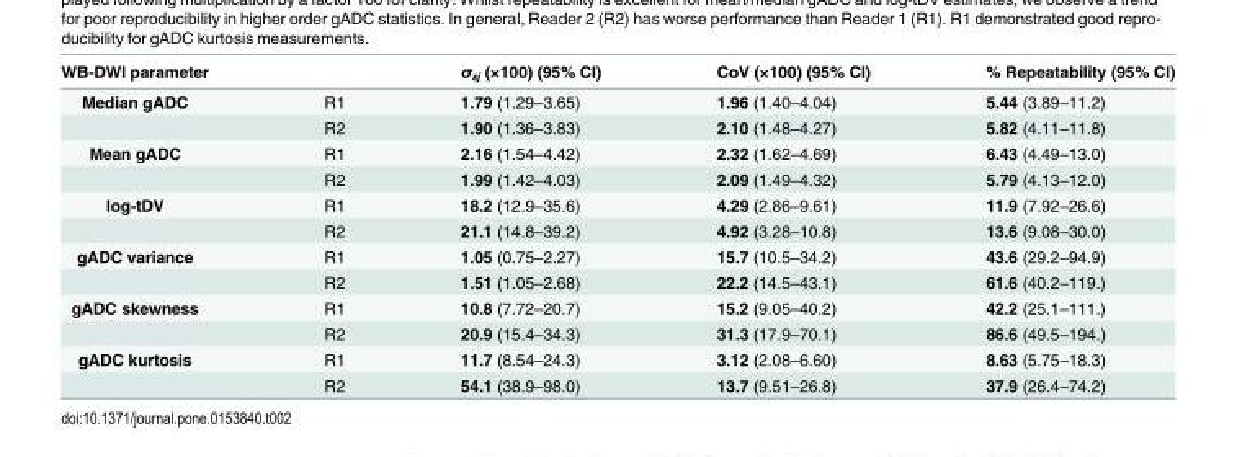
<table><thead><tr><td>WB-DWI parameter</td><td></td><td>σ<sub>εj</sub> (×100) (95% CI)</td><td>CoV (×100) (95% CI)</td><td>% Repeatability (95% CI)</td></tr></thead><tbody><tr><td rowspan="2">Median gADC</td><td>R1</td><td>1.79 (1.29–3.65)</td><td>1.96 (1.40–4.04)</td><td>5.44 (3.89–11.2)</td></tr><tr><td>R2</td><td>1.90 (1.36–3.83)</td><td>2.10 (1.48–4.27)</td><td>5.82 (4.11–11.8)</td></tr><tr><td rowspan="2">Mean gADC</td><td>R1</td><td>2.16 (1.54–4.42)</td><td>2.32 (1.62–4.69)</td><td>6.43 (4.49–13.0)</td></tr><tr><td>R2</td><td>1.99 (1.42–4.03)</td><td>2.09 (1.49–4.32)</td><td>5.79 (4.13–12.0)</td></tr><tr><td rowspan="2">log-tDV</td><td>R1</td><td>18.2 (12.9–35.6)</td><td>4.29 (2.86–9.61)</td><td>11.9 (7.92–26.6)</td></tr><tr><td>R2</td><td>21.1 (14.8–39.2)</td><td>4.92 (3.28–10.8)</td><td>13.6 (9.08–30.0)</td></tr><tr><td rowspan="2">gADC variance</td><td>R1</td><td>1.05 (0.75–2.27)</td><td>15.7 (10.5–34.2)</td><td>43.6 (29.2–94.9)</td></tr><tr><td>R2</td><td>1.51 (1.05–2.68)</td><td>22.2 (14.5–43.1)</td><td>61.6 (40.2–119.)</td></tr><tr><td rowspan="2">gADC skewness</td><td>R1</td><td>10.8 (7.72–20.7)</td><td>15.2 (9.05–40.2)</td><td>42.2 (25.1–111.)</td></tr><tr><td>R2</td><td>20.9 (15.4–34.3)</td><td>31.3 (17.9–70.1)</td><td>86.6 (49.5–194.)</td></tr><tr><td rowspan="2">gADC kurtosis</td><td>R1</td><td>11.7 (8.54–24.3)</td><td>3.12 (2.08–6.60)</td><td>8.63 (5.75–18.3)</td></tr><tr><td>R2</td><td>54.1 (38.9–98.0)</td><td>13.7 (9.51–26.8)</td><td>37.9 (26.4–74.2)</td></tr></tbody></table>